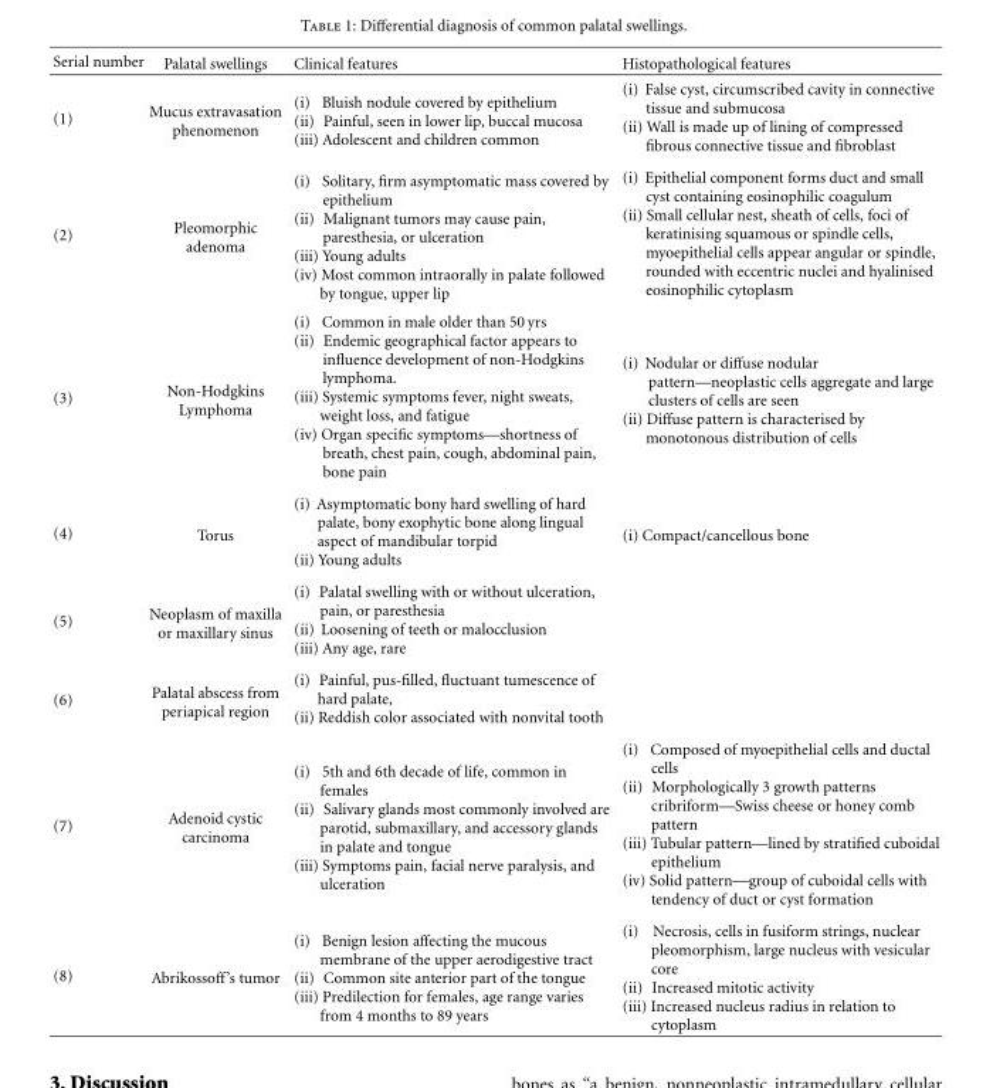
<table><thead><tr><td>Serial number</td><td>Palatal swellings</td><td>Clinical features</td><td>Histopathological features</td></tr></thead><tbody><tr><td>(1)</td><td>Mucus extravasation phenomenon</td><td>(i) Bluish nodule covered by epithelium (ii) Painful, seen in lower lip, buccal mucosa (iii) Adolescent and children common</td><td>(i) False cyst, circumscribed cavity in connective tissue and submucosa (ii) Wall is made up of lining of compressed fibrous connective tissue and fibroblast</td></tr><tr><td>(2)</td><td>Pleomorphic adenoma</td><td>(i) Solitary, firm asymptomatic mass covered by epithelium (ii) Malignant tumors may cause pain, paresthesia, or ulceration (iii) Young adults (iv) Most common intraorally in palate followed by tongue, upper lip</td><td>(i) Epithelial component forms duct and small cyst containing eosinophilic coagulum (ii) Small cellular nest, sheath of cells, foci of keratinising squamous or spindle cells, myoepithelial cells appear angular or spindle, rounded with eccentric nuclei and hyalinised eosinophilic cytoplasm</td></tr><tr><td>(3)</td><td>Non-Hodgkins Lymphoma</td><td>(i) Common in male older than 50 yrs (ii) Endemic geographical factor appears to influence development of non-Hodgkins lymphoma. (iii) Systemic symptoms fever, night sweats, weight loss, and fatigue (iv) Organ specific symptoms—shortness of breath, chest pain, cough, abdominal pain, bone pain</td><td>(i) Nodular or diffuse nodular pattern—neoplastic cells aggregate and large clusters of cells are seen (ii) Diffuse pattern is characterised by monotonous distribution of cells</td></tr><tr><td>(4)</td><td>Torus</td><td>(i) Asymptomatic bony hard swelling of hard palate, bony exophytic bone along lingual aspect of mandibular torpid (ii) Young adults</td><td>(i) Compact/cancellous bone</td></tr><tr><td>(5)</td><td>Neoplasm of maxilla or maxillary sinus</td><td>(i) Palatal swelling with or without ulceration, pain, or paresthesia (ii) Loosening of teeth or malocclusion (iii) Any age, rare</td><td></td></tr><tr><td>(6)</td><td>Palatal abscess from periapical region</td><td>(i) Painful, pus-filled, fluctuant tumescence of hard palate, (ii) Reddish color associated with nonvital tooth</td><td></td></tr><tr><td>(7)</td><td>Adenoid cystic carcinoma</td><td>(i) 5th and 6th decade of life, common in females (ii) Salivary glands most commonly involved are parotid, submaxillary, and accessory glands in palate and tongue (iii) Symptoms pain, facial nerve paralysis, and ulceration</td><td>(i) Composed of myoepithelial cells and ductal cells (ii) Morphologically 3 growth patterns cribriform—Swiss cheese or honey comb pattern (iii) Tubular pattern—lined by stratified cuboidal epithelium (iv) Solid pattern—group of cuboidal cells with tendency of duct or cyst formation</td></tr><tr><td>(8)</td><td>Abrikossoff’s tumor</td><td>(i) Benign lesion affecting the mucous membrane of the upper aerodigestive tract (ii) Common site anterior part of the tongue (iii) Predilection for females, age range varies from 4 months to 89 years</td><td>(i) Necrosis, cells in fusiform strings, nuclear pleomorphism, large nucleus with vesicular core (ii) Increased mitotic activity (iii) Increased nucleus radius in relation to cytoplasm</td></tr></tbody></table>